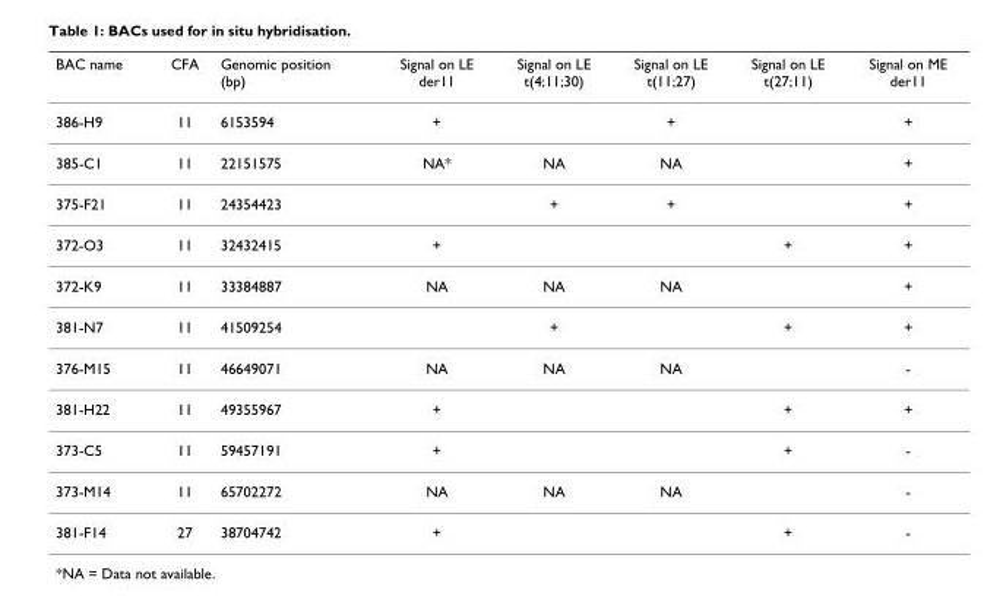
<table><thead><tr><td>BAC name</td><td>CFA</td><td>Genomic position (bp)</td><td>Signal on LE der11</td><td>Signal on LE t(4;11;30)</td><td>Signal on LE t(11;27)</td><td>Signal on LE t(27;11)</td><td>Signal on ME der11</td></tr></thead><tbody><tr><td>386-H9</td><td>11</td><td>6153594</td><td>+</td><td></td><td>+</td><td></td><td>+</td></tr><tr><td>385-C1</td><td>11</td><td>22151575</td><td>NA*</td><td>NA</td><td>NA</td><td></td><td>+</td></tr><tr><td>375-F21</td><td>11</td><td>24354423</td><td></td><td>+</td><td>+</td><td></td><td>+</td></tr><tr><td>372-O3</td><td>11</td><td>32432415</td><td>+</td><td></td><td></td><td>+</td><td>+</td></tr><tr><td>372-K9</td><td>11</td><td>33384887</td><td>NA</td><td>NA</td><td>NA</td><td></td><td>+</td></tr><tr><td>381-N7</td><td>11</td><td>41509254</td><td></td><td>+</td><td></td><td>+</td><td>+</td></tr><tr><td>376-M15</td><td>11</td><td>46649071</td><td>NA</td><td>NA</td><td>NA</td><td></td><td>-</td></tr><tr><td>381-H22</td><td>11</td><td>49355967</td><td>+</td><td></td><td></td><td>+</td><td>+</td></tr><tr><td>373-C5</td><td>11</td><td>59457191</td><td>+</td><td></td><td></td><td>+</td><td>-</td></tr><tr><td>373-M14</td><td>11</td><td>65702272</td><td>NA</td><td>NA</td><td>NA</td><td></td><td>-</td></tr><tr><td>381-F14</td><td>27</td><td>38704742</td><td>+</td><td></td><td></td><td>+</td><td>-</td></tr></tbody></table>